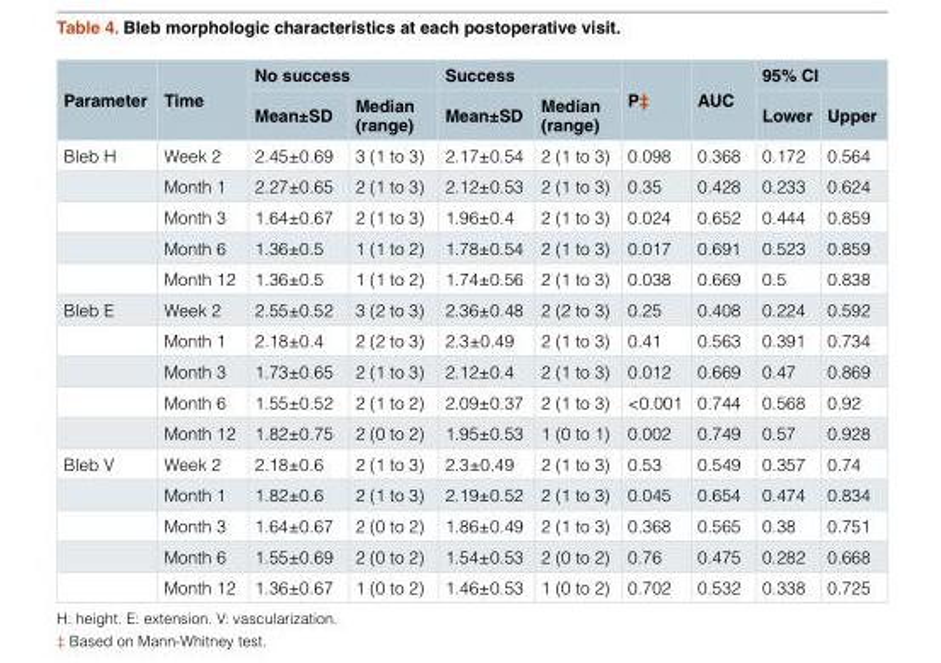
<table><thead><tr><td rowspan="2">Parameter</td><td rowspan="2">Time</td><td colspan="2">No success</td><td colspan="2">Success</td><td rowspan="2">P‡</td><td rowspan="2">AUC</td><td colspan="2">95% CI</td></tr><tr><td>Mean±SD</td><td>Median (range)</td><td>Mean±SD</td><td>Median (range)</td><td>Lower</td><td>Upper</td></tr></thead><tbody><tr><td rowspan="5">Bleb H</td><td>Week 2</td><td>2.45±0.69</td><td>3 (1 to 3)</td><td>2.17±0.54</td><td>2 (1 to 3)</td><td>0.098</td><td>0.368</td><td>0.172</td><td>0.564</td></tr><tr><td>Month 1</td><td>2.27±0.65</td><td>2 (1 to 3)</td><td>2.12±0.53</td><td>2 (1 to 3)</td><td>0.35</td><td>0.428</td><td>0.233</td><td>0.624</td></tr><tr><td>Month 3</td><td>1.64±0.67</td><td>2 (1 to 3)</td><td>1.96±0.4</td><td>2 (1 to 3)</td><td>0.024</td><td>0.652</td><td>0.444</td><td>0.859</td></tr><tr><td>Month 6</td><td>1.36±0.5</td><td>1 (1 to 2)</td><td>1.78±0.54</td><td>2 (1 to 3)</td><td>0.017</td><td>0.691</td><td>0.523</td><td>0.859</td></tr><tr><td>Month 12</td><td>1.36±0.5</td><td>1 (1 to 2)</td><td>1.74±0.56</td><td>2 (1 to 3)</td><td>0.038</td><td>0.669</td><td>0.5</td><td>0.838</td></tr><tr><td rowspan="5">Bleb E</td><td>Week 2</td><td>2.55±0.52</td><td>3 (2 to 3)</td><td>2.36±0.48</td><td>2 (2 to 3)</td><td>0.25</td><td>0.408</td><td>0.224</td><td>0.592</td></tr><tr><td>Month 1</td><td>2.18±0.4</td><td>2 (2 to 3)</td><td>2.3±0.49</td><td>2 (1 to 3)</td><td>0.41</td><td>0.563</td><td>0.391</td><td>0.734</td></tr><tr><td>Month 3</td><td>1.73±0.65</td><td>2 (1 to 3)</td><td>2.12±0.4</td><td>2 (1 to 3)</td><td>0.012</td><td>0.669</td><td>0.47</td><td>0.869</td></tr><tr><td>Month 6</td><td>1.55±0.52</td><td>2 (1 to 2)</td><td>2.09±0.37</td><td>2 (1 to 3)</td><td>&lt;0.001</td><td>0.744</td><td>0.568</td><td>0.92</td></tr><tr><td>Month 12</td><td>1.82±0.75</td><td>2 (0 to 2)</td><td>1.95±0.53</td><td>1 (0 to 1)</td><td>0.002</td><td>0.749</td><td>0.57</td><td>0.928</td></tr><tr><td rowspan="5">Bleb V</td><td>Week 2</td><td>2.18±0.6</td><td>2 (1 to 3)</td><td>2.3±0.49</td><td>2 (1 to 3)</td><td>0.53</td><td>0.549</td><td>0.357</td><td>0.74</td></tr><tr><td>Month 1</td><td>1.82±0.6</td><td>2 (1 to 3)</td><td>2.19±0.52</td><td>2 (1 to 3)</td><td>0.045</td><td>0.654</td><td>0.474</td><td>0.834</td></tr><tr><td>Month 3</td><td>1.64±0.67</td><td>2 (0 to 2)</td><td>1.86±0.49</td><td>2 (1 to 3)</td><td>0.368</td><td>0.565</td><td>0.38</td><td>0.751</td></tr><tr><td>Month 6</td><td>1.55±0.69</td><td>2 (0 to 2)</td><td>1.54±0.53</td><td>2 (0 to 2)</td><td>0.76</td><td>0.475</td><td>0.282</td><td>0.668</td></tr><tr><td>Month 12</td><td>1.36±0.67</td><td>1 (0 to 2)</td><td>1.46±0.53</td><td>1 (0 to 2)</td><td>0.702</td><td>0.532</td><td>0.338</td><td>0.725</td></tr></tbody></table>